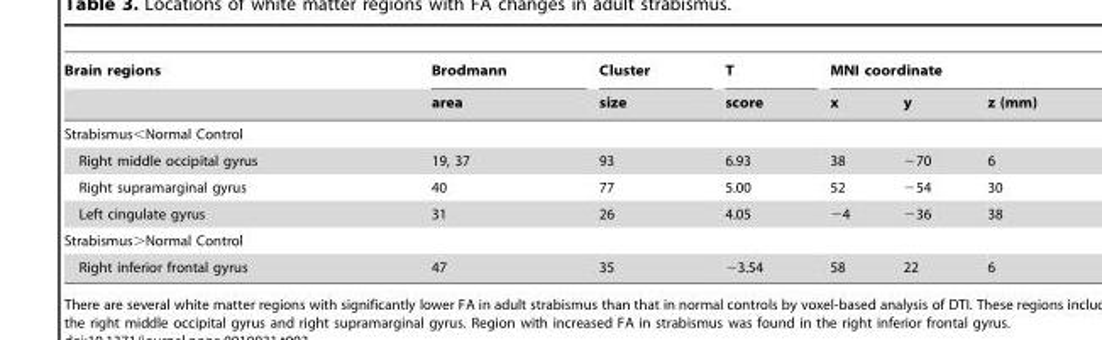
<table><thead><tr><td rowspan="2">Brain regions</td><td rowspan="2">Brodmann area</td><td rowspan="2">Cluster size</td><td rowspan="2">T score</td><td colspan="3">MNI coordinate</td></tr><tr><td>x</td><td>y</td><td>z (mm)</td></tr></thead><tbody><tr><td colspan="7">Strabismus&lt;Normal Control</td></tr><tr><td>Right middle occipital gyrus</td><td>19, 37</td><td>93</td><td>6.93</td><td>38</td><td>−70</td><td>6</td></tr><tr><td>Right supramarginal gyrus</td><td>40</td><td>77</td><td>5.00</td><td>52</td><td>−54</td><td>30</td></tr><tr><td>Left cingulate gyrus</td><td>31</td><td>26</td><td>4.05</td><td>−4</td><td>−36</td><td>38</td></tr><tr><td colspan="7">Strabismus&gt;Normal Control</td></tr><tr><td>Right inferior frontal gyrus</td><td>47</td><td>35</td><td>−3.54</td><td>58</td><td>22</td><td>6</td></tr></tbody></table>